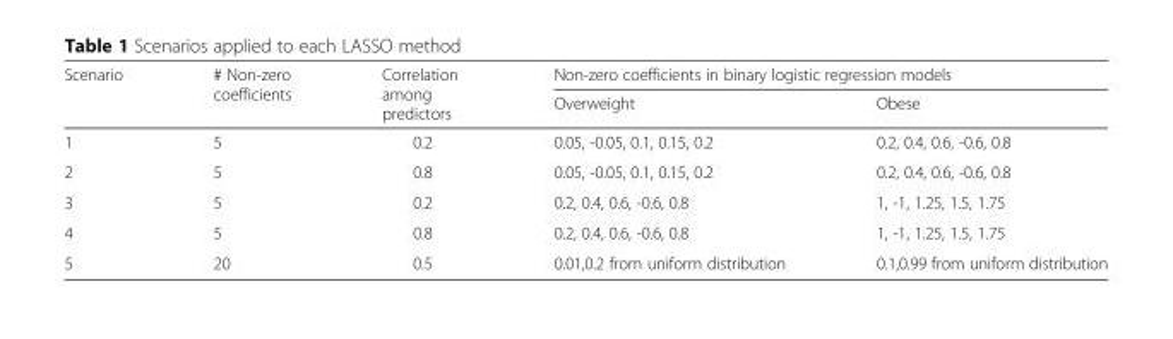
<table><thead><tr><td rowspan="2">Scenario</td><td rowspan="2"># Non-zero coefficients</td><td rowspan="2">Correlation among predictors</td><td colspan="2">Non-zero coefficients in binary logistic regression models</td></tr><tr><td>Overweight</td><td>Obese</td></tr></thead><tbody><tr><td>1</td><td>5</td><td>0.2</td><td>0.05, -0.05, 0.1, 0.15, 0.2</td><td>0.2, 0.4, 0.6, -0.6, 0.8</td></tr><tr><td>2</td><td>5</td><td>0.8</td><td>0.05, -0.05, 0.1, 0.15, 0.2</td><td>0.2, 0.4, 0.6, -0.6, 0.8</td></tr><tr><td>3</td><td>5</td><td>0.2</td><td>0.2, 0.4, 0.6, -0.6, 0.8</td><td>1, -1, 1.25, 1.5, 1.75</td></tr><tr><td>4</td><td>5</td><td>0.8</td><td>0.2, 0.4, 0.6, -0.6, 0.8</td><td>1, -1, 1.25, 1.5, 1.75</td></tr><tr><td>5</td><td>20</td><td>0.5</td><td>0.01,0.2 from uniform distribution</td><td>0.1,0.99 from uniform distribution</td></tr></tbody></table>